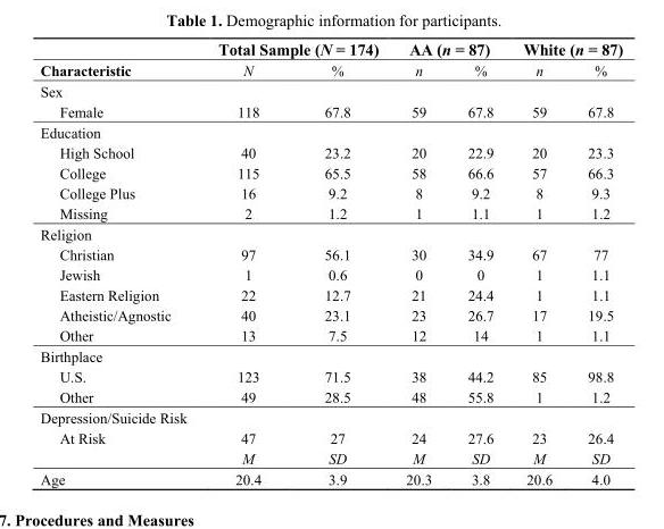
<table><thead><tr><td rowspan="2">Characteristic</td><td colspan="2">Total Sample (N = 174)</td><td colspan="2">AA (n = 87)</td><td colspan="2">White (n = 87)</td></tr><tr><td>N</td><td>%</td><td>n</td><td>%</td><td>n</td><td>%</td></tr></thead><tbody><tr><td colspan="7">Sex</td></tr><tr><td>Female</td><td>118</td><td>67.8</td><td>59</td><td>67.8</td><td>59</td><td>67.8</td></tr><tr><td colspan="7">Education</td></tr><tr><td>High School</td><td>40</td><td>23.2</td><td>20</td><td>22.9</td><td>20</td><td>23.3</td></tr><tr><td>College</td><td>115</td><td>65.5</td><td>58</td><td>66.6</td><td>57</td><td>66.3</td></tr><tr><td>College Plus</td><td>16</td><td>9.2</td><td>8</td><td>9.2</td><td>8</td><td>9.3</td></tr><tr><td>Missing</td><td>2</td><td>1.2</td><td>1</td><td>1.1</td><td>1</td><td>1.2</td></tr><tr><td colspan="7">Religion</td></tr><tr><td>Christian</td><td>97</td><td>56.1</td><td>30</td><td>34.9</td><td>67</td><td>77</td></tr><tr><td>Jewish</td><td>1</td><td>0.6</td><td>0</td><td>0</td><td>1</td><td>1.1</td></tr><tr><td>Eastern Religion</td><td>22</td><td>12.7</td><td>21</td><td>24.4</td><td>1</td><td>1.1</td></tr><tr><td>Atheistic/Agnostic</td><td>40</td><td>23.1</td><td>23</td><td>26.7</td><td>17</td><td>19.5</td></tr><tr><td>Other</td><td>13</td><td>7.5</td><td>12</td><td>14</td><td>1</td><td>1.1</td></tr><tr><td colspan="7">Birthplace</td></tr><tr><td>U.S.</td><td>123</td><td>71.5</td><td>38</td><td>44.2</td><td>85</td><td>98.8</td></tr><tr><td>Other</td><td>49</td><td>28.5</td><td>48</td><td>55.8</td><td>1</td><td>1.2</td></tr><tr><td colspan="7">Depression/Suicide Risk</td></tr><tr><td rowspan="2">At Risk</td><td>47</td><td>27</td><td>24</td><td>27.6</td><td>23</td><td>26.4</td></tr><tr><td>M</td><td>SD</td><td>M</td><td>SD</td><td>M</td><td>SD</td></tr><tr><td>Age</td><td>20.4</td><td>3.9</td><td>20.3</td><td>3.8</td><td>20.6</td><td>4.0</td></tr></tbody></table>